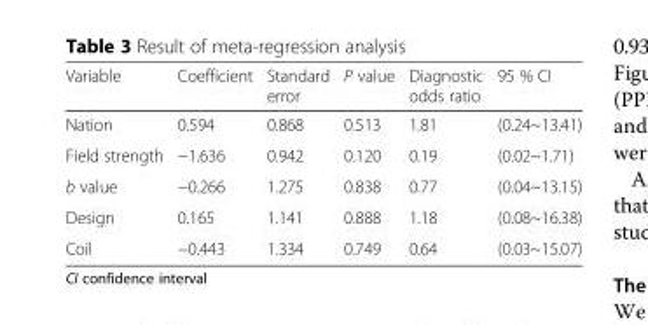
<table><thead><tr><td>Variable</td><td>Coefficient</td><td>Standard error</td><td>P value</td><td>Diagnostic odds ratio</td><td>95 % CI</td></tr></thead><tbody><tr><td>Nation</td><td>0.594</td><td>0.868</td><td>0.513</td><td>1.81</td><td>(0.24~13.41)</td></tr><tr><td>Field strength</td><td>−1.636</td><td>0.942</td><td>0.120</td><td>0.19</td><td>(0.02~1.71)</td></tr><tr><td>b value</td><td>−0.266</td><td>1.275</td><td>0.838</td><td>0.77</td><td>(0.04~13.15)</td></tr><tr><td>Design</td><td>0.165</td><td>1.141</td><td>0.888</td><td>1.18</td><td>(0.08~16.38)</td></tr><tr><td>Coil</td><td>−0.443</td><td>1.334</td><td>0.749</td><td>0.64</td><td>(0.03~15.07)</td></tr></tbody></table>